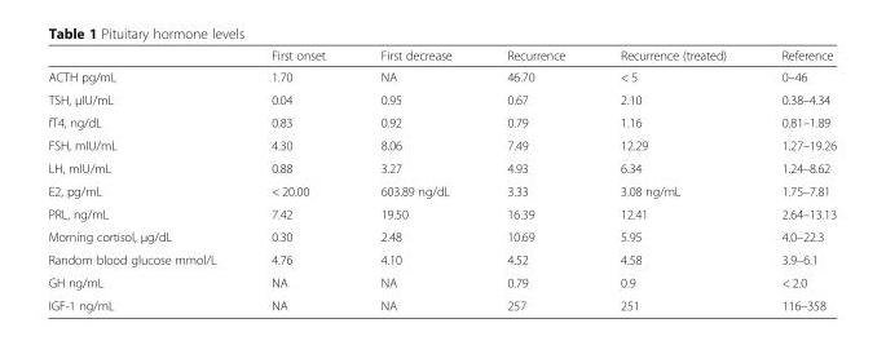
<table><thead><tr><td></td><td>First onset</td><td>First decrease</td><td>Recurrence</td><td>Recurrence (treated)</td><td>Reference</td></tr></thead><tbody><tr><td>ACTH pg/mL</td><td>1.70</td><td>NA</td><td>46.70</td><td>&lt; 5</td><td>0–46</td></tr><tr><td>TSH, μIU/mL</td><td>0.04</td><td>0.95</td><td>0.67</td><td>2.10</td><td>0.38–4.34</td></tr><tr><td>fT4, ng/dL</td><td>0.83</td><td>0.92</td><td>0.79</td><td>1.16</td><td>0.81–1.89</td></tr><tr><td>FSH, mIU/mL</td><td>4.30</td><td>8.06</td><td>7.49</td><td>12.29</td><td>1.27–19.26</td></tr><tr><td>LH, mIU/mL</td><td>0.88</td><td>3.27</td><td>4.93</td><td>6.34</td><td>1.24–8.62</td></tr><tr><td>E2, pg/mL</td><td>&lt; 20.00</td><td>603.89 ng/dL</td><td>3.33</td><td>3.08 ng/mL</td><td>1.75–7.81</td></tr><tr><td>PRL, ng/mL</td><td>7.42</td><td>19.50</td><td>16.39</td><td>12.41</td><td>2.64–13.13</td></tr><tr><td>Morning cortisol, μg/dL</td><td>0.30</td><td>2.48</td><td>10.69</td><td>5.95</td><td>4.0–22.3</td></tr><tr><td>Random blood glucose mmol/L</td><td>4.76</td><td>4.10</td><td>4.52</td><td>4.58</td><td>3.9–6.1</td></tr><tr><td>GH ng/mL</td><td>NA</td><td>NA</td><td>0.79</td><td>0.9</td><td>&lt; 2.0</td></tr><tr><td>IGF-1 ng/mL</td><td>NA</td><td>NA</td><td>257</td><td>251</td><td>116–358</td></tr></tbody></table>